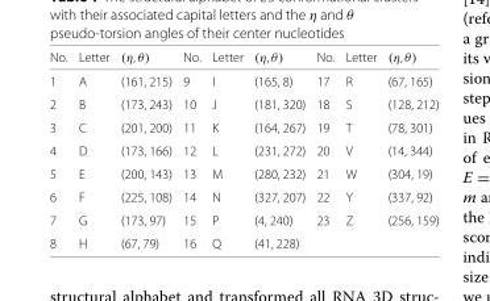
<table><thead><tr><td>No.</td><td>Letter</td><td>(η, θ)</td><td>No.</td><td>Letter</td><td>(η, θ)</td><td>No.</td><td>Letter</td><td>(η, θ)</td></tr></thead><tbody><tr><td>1</td><td>A</td><td>(161, 215)</td><td>9</td><td>I</td><td>(165, 8)</td><td>17</td><td>R</td><td>(67, 165)</td></tr><tr><td>2</td><td>B</td><td>(173, 243)</td><td>10</td><td>J</td><td>(181, 320)</td><td>18</td><td>S</td><td>(128, 212)</td></tr><tr><td>3</td><td>C</td><td>(201, 200)</td><td>11</td><td>K</td><td>(164, 267)</td><td>19</td><td>T</td><td>(78, 301)</td></tr><tr><td>4</td><td>D</td><td>(173, 166)</td><td>12</td><td>L</td><td>(231, 272)</td><td>20</td><td>V</td><td>(14, 344)</td></tr><tr><td>5</td><td>E</td><td>(200, 143)</td><td>13</td><td>M</td><td>(280, 232)</td><td>21</td><td>W</td><td>(304, 19)</td></tr><tr><td>6</td><td>F</td><td>(225, 108)</td><td>14</td><td>N</td><td>(327, 207)</td><td>22</td><td>Y</td><td>(337, 92)</td></tr><tr><td>7</td><td>G</td><td>(173, 97)</td><td>15</td><td>P</td><td>(4, 240)</td><td>23</td><td>Z</td><td>(256, 159)</td></tr><tr><td>8</td><td>H</td><td>(67, 79)</td><td>16</td><td>Q</td><td>(41, 228)</td><td></td><td></td><td></td></tr></tbody></table>